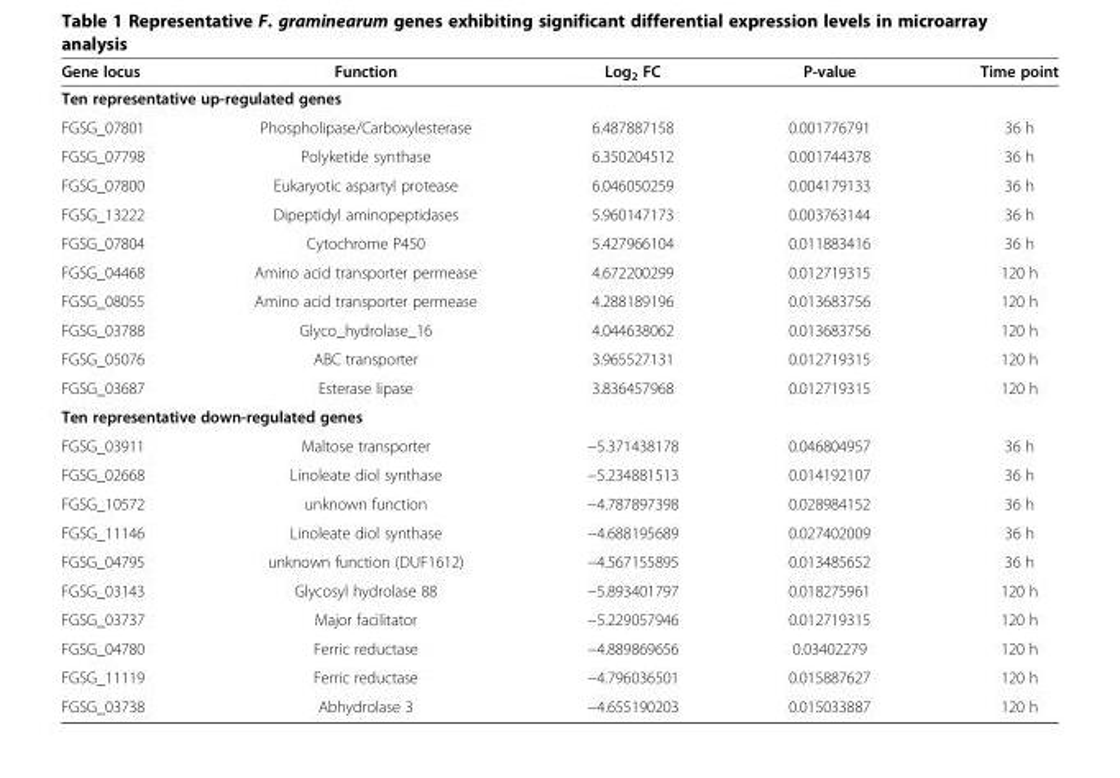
<table><thead><tr><td>Gene locus</td><td>Function</td><td>Log<sub>2</sub> FC</td><td>P-value</td><td>Time point</td></tr></thead><tbody><tr><td colspan="5">Ten representative up-regulated genes</td></tr><tr><td>FGSG_07801</td><td>Phospholipase/Carboxylesterase</td><td>6.487887158</td><td>0.001776791</td><td>36 h</td></tr><tr><td>FGSG_07798</td><td>Polyketide synthase</td><td>6.350204512</td><td>0.001744378</td><td>36 h</td></tr><tr><td>FGSG_07800</td><td>Eukaryotic aspartyl protease</td><td>6.046050259</td><td>0.004179133</td><td>36 h</td></tr><tr><td>FGSG_13222</td><td>Dipeptidyl aminopeptidases</td><td>5.960147173</td><td>0.003763144</td><td>36 h</td></tr><tr><td>FGSG_07804</td><td>Cytochrome P450</td><td>5.427966104</td><td>0.011883416</td><td>36 h</td></tr><tr><td>FGSG_04468</td><td>Amino acid transporter permease</td><td>4.672200299</td><td>0.012719315</td><td>120 h</td></tr><tr><td>FGSG_08055</td><td>Amino acid transporter permease</td><td>4.288189196</td><td>0.013683756</td><td>120 h</td></tr><tr><td>FGSG_03788</td><td>Glyco_hydrolase_16</td><td>4.044638062</td><td>0.013683756</td><td>120 h</td></tr><tr><td>FGSG_05076</td><td>ABC transporter</td><td>3.965527131</td><td>0.012719315</td><td>120 h</td></tr><tr><td>FGSG_03687</td><td>Esterase lipase</td><td>3.836457968</td><td>0.012719315</td><td>120 h</td></tr><tr><td colspan="5">Ten representative down-regulated genes</td></tr><tr><td>FGSG_03911</td><td>Maltose transporter</td><td>−5.371438178</td><td>0.046804957</td><td>36 h</td></tr><tr><td>FGSG_02668</td><td>Linoleate diol synthase</td><td>−5.234881513</td><td>0.014192107</td><td>36 h</td></tr><tr><td>FGSG_10572</td><td>unknown function</td><td>−4.787897398</td><td>0.028984152</td><td>36 h</td></tr><tr><td>FGSG_11146</td><td>Linoleate diol synthase</td><td>−4.688195689</td><td>0.027402009</td><td>36 h</td></tr><tr><td>FGSG_04795</td><td>unknown function (DUF1612)</td><td>−4.567155895</td><td>0.013485652</td><td>36 h</td></tr><tr><td>FGSG_03143</td><td>Glycosyl hydrolase 88</td><td>−5.893401797</td><td>0.018275961</td><td>120 h</td></tr><tr><td>FGSG_03737</td><td>Major facilitator</td><td>−5.229057946</td><td>0.012719315</td><td>120 h</td></tr><tr><td>FGSG_04780</td><td>Ferric reductase</td><td>−4.889869656</td><td>0.03402279</td><td>120 h</td></tr><tr><td>FGSG_11119</td><td>Ferric reductase</td><td>−4.796036501</td><td>0.015887627</td><td>120 h</td></tr><tr><td>FGSG_03738</td><td>Abhydrolase 3</td><td>−4.655190203</td><td>0.015033887</td><td>120 h</td></tr></tbody></table>